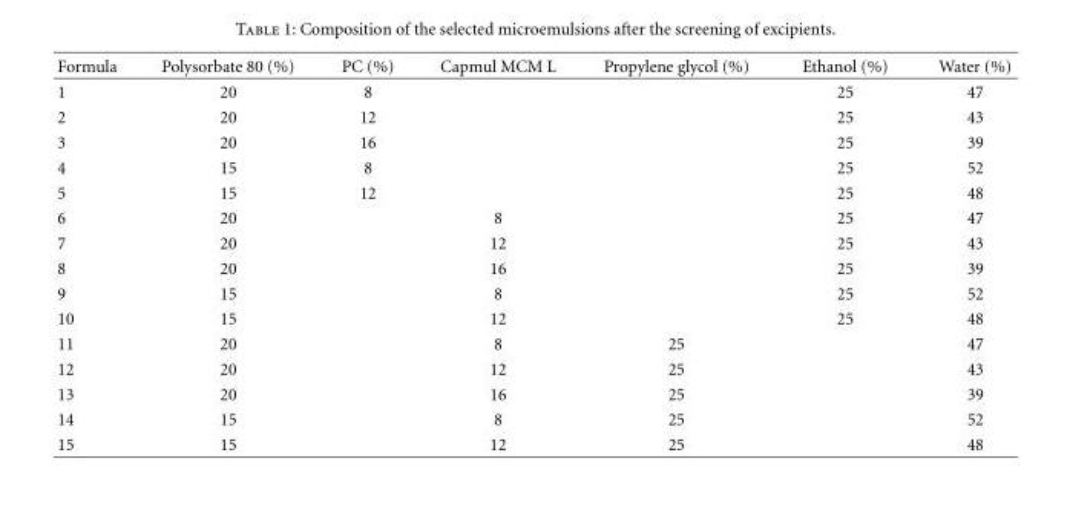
<table><thead><tr><td>Formula</td><td>Polysorbate 80 (%)</td><td>PC (%)</td><td>Capmul MCM L</td><td>Propylene glycol (%)</td><td>Ethanol (%)</td><td>Water (%)</td></tr></thead><tbody><tr><td>1</td><td>20</td><td>8</td><td></td><td></td><td>25</td><td>47</td></tr><tr><td>2</td><td>20</td><td>12</td><td></td><td></td><td>25</td><td>43</td></tr><tr><td>3</td><td>20</td><td>16</td><td></td><td></td><td>25</td><td>39</td></tr><tr><td>4</td><td>15</td><td>8</td><td></td><td></td><td>25</td><td>52</td></tr><tr><td>5</td><td>15</td><td>12</td><td></td><td></td><td>25</td><td>48</td></tr><tr><td>6</td><td>20</td><td></td><td>8</td><td></td><td>25</td><td>47</td></tr><tr><td>7</td><td>20</td><td></td><td>12</td><td></td><td>25</td><td>43</td></tr><tr><td>8</td><td>20</td><td></td><td>16</td><td></td><td>25</td><td>39</td></tr><tr><td>9</td><td>15</td><td></td><td>8</td><td></td><td>25</td><td>52</td></tr><tr><td>10</td><td>15</td><td></td><td>12</td><td></td><td>25</td><td>48</td></tr><tr><td>11</td><td>20</td><td></td><td>8</td><td>25</td><td></td><td>47</td></tr><tr><td>12</td><td>20</td><td></td><td>12</td><td>25</td><td></td><td>43</td></tr><tr><td>13</td><td>20</td><td></td><td>16</td><td>25</td><td></td><td>39</td></tr><tr><td>14</td><td>15</td><td></td><td>8</td><td>25</td><td></td><td>52</td></tr><tr><td>15</td><td>15</td><td></td><td>12</td><td>25</td><td></td><td>48</td></tr></tbody></table>